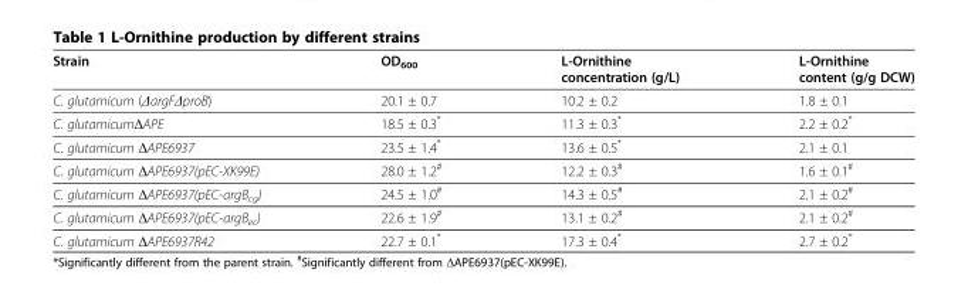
<table><thead><tr><td>Strain</td><td>OD<sub>600</sub></td><td>L-Ornithine concentration (g/L)</td><td>L-Ornithine content (g/g DCW)</td></tr></thead><tbody><tr><td>C. glutamicum (ΔargFΔproB)</td><td>20.1 ± 0.7</td><td>10.2 ± 0.2</td><td>1.8 ± 0.1</td></tr><tr><td>C. glutamicumΔAPE</td><td>18.5 ± 0.3*</td><td>11.3 ± 0.3*</td><td>2.2 ± 0.2*</td></tr><tr><td>C. glutamicum ΔAPE6937</td><td>23.5 ± 1.4*</td><td>13.6 ± 0.5*</td><td>2.1 ± 0.1</td></tr><tr><td>C. glutamicum ΔAPE6937(pEC-XK99E)</td><td>28.0 ± 1.2<sup>#</sup></td><td>12.2 ± 0.3<sup>#</sup></td><td>1.6 ± 0.1<sup>#</sup></td></tr><tr><td>C. glutamicum ΔAPE6937(pEC-argB<sub>cg</sub>)</td><td>24.5 ± 1.0<sup>#</sup></td><td>14.3 ± 0.5<sup>#</sup></td><td>2.1 ± 0.2<sup>#</sup></td></tr><tr><td>C. glutamicum ΔAPE6937(pEC-argB<sub>ec</sub>)</td><td>22.6 ± 1.9<sup>#</sup></td><td>13.1 ± 0.2<sup>#</sup></td><td>2.1 ± 0.2<sup>#</sup></td></tr><tr><td>C. glutamicum ΔAPE6937R42</td><td>22.7 ± 0.1*</td><td>17.3 ± 0.4*</td><td>2.7 ± 0.2*</td></tr></tbody></table>